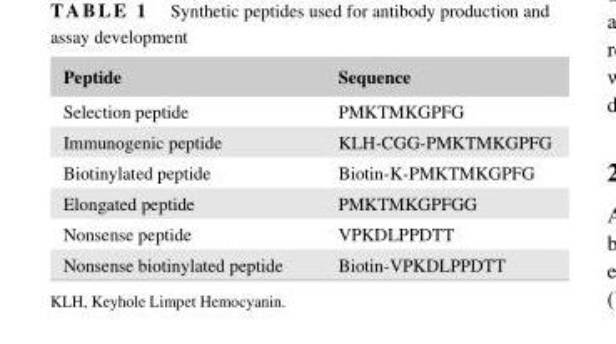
<table><thead><tr><td>Peptide</td><td>Sequence</td></tr></thead><tbody><tr><td>Selection peptide</td><td>PMKTMKGPFG</td></tr><tr><td>Immunogenic peptide</td><td>KLH- CGG- PMKTMKGPFG</td></tr><tr><td>Biotinylated peptide</td><td>Biotin- K- PMKTMKGPFG</td></tr><tr><td>Elongated peptide</td><td>PMKTMKGPFGG</td></tr><tr><td>Nonsense peptide</td><td>VPKDLPPDTT</td></tr><tr><td>Nonsense biotinylated peptide</td><td>Biotin- VPKDLPPDTT</td></tr></tbody></table>